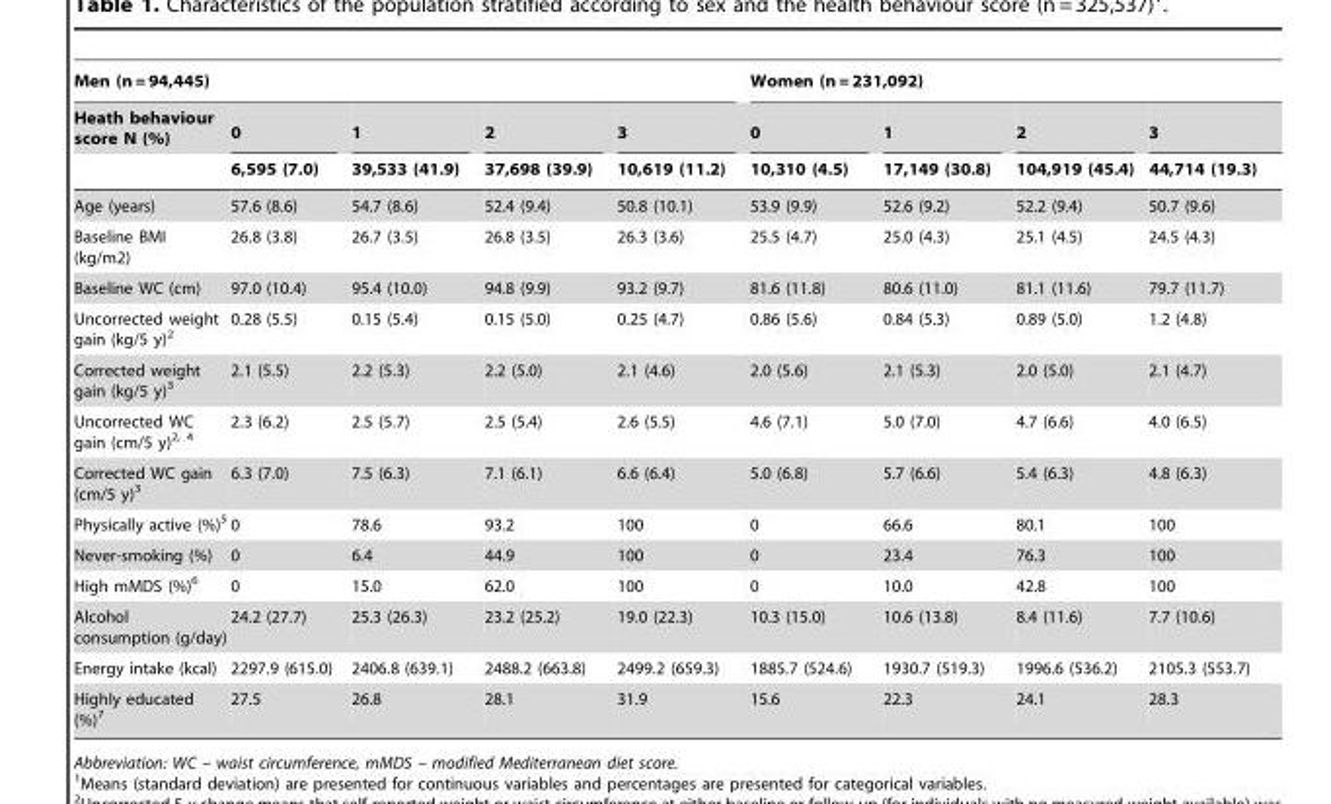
<table><thead><tr><td colspan="5">Men (n = 94,445)</td><td colspan="4">Women (n = 231,092)</td></tr><tr><td rowspan="2">Heath behaviour score N (%)</td><td rowspan="2">0 6,595 (7.0)</td><td rowspan="2">1 39,533 (41.9)</td><td rowspan="2">2 37,698 (39.9)</td><td rowspan="2">3 10,619 (11.2)</td><td rowspan="2">0 10,310 (4.5)</td><td rowspan="2">1 17,149 (30.8)</td><td rowspan="2">2 104,919 (45.4)</td><td rowspan="2">3 44,714 (19.3)</td></tr><tr></tr></thead><tbody><tr><td>Age (years)</td><td>57.6 (8.6)</td><td>54.7 (8.6)</td><td>52.4 (9.4)</td><td>50.8 (10.1)</td><td>53.9 (9.9)</td><td>52.6 (9.2)</td><td>52.2 (9.4)</td><td>50.7 (9.6)</td></tr><tr><td>Baseline BMI (kg/m2)</td><td>26.8 (3.8)</td><td>26.7 (3.5)</td><td>26.8 (3.5)</td><td>26.3 (3.6)</td><td>25.5 (4.7)</td><td>25.0 (4.3)</td><td>25.1 (4.5)</td><td>24.5 (4.3)</td></tr><tr><td>Baseline WC (cm)</td><td>97.0 (10.4)</td><td>95.4 (10.0)</td><td>94.8 (9.9)</td><td>93.2 (9.7)</td><td>81.6 (11.8)</td><td>80.6 (11.0)</td><td>81.1 (11.6)</td><td>79.7 (11.7)</td></tr><tr><td>Uncorrected weight gain (kg/5 y)<sup>2</sup></td><td>0.28 (5.5)</td><td>0.15 (5.4)</td><td>0.15 (5.0)</td><td>0.25 (4.7)</td><td>0.86 (5.6)</td><td>0.84 (5.3)</td><td>0.89 (5.0)</td><td>1.2 (4.8)</td></tr><tr><td>Corrected weight gain (kg/5 y)<sup>3</sup></td><td>2.1 (5.5)</td><td>2.2 (5.3)</td><td>2.2 (5.0)</td><td>2.1 (4.6)</td><td>2.0 (5.6)</td><td>2.1 (5.3)</td><td>2.0 (5.0)</td><td>2.1 (4.7)</td></tr><tr><td>Uncorrected WC gain (cm/5 y)<sup>2, 4</sup></td><td>2.3 (6.2)</td><td>2.5 (5.7)</td><td>2.5 (5.4)</td><td>2.6 (5.5)</td><td>4.6 (7.1)</td><td>5.0 (7.0)</td><td>4.7 (6.6)</td><td>4.0 (6.5)</td></tr><tr><td>Corrected WC gain (cm/5 y)<sup>3</sup></td><td>6.3 (7.0)</td><td>7.5 (6.3)</td><td>7.1 (6.1)</td><td>6.6 (6.4)</td><td>5.0 (6.8)</td><td>5.7 (6.6)</td><td>5.4 (6.3)</td><td>4.8 (6.3)</td></tr><tr><td>Physically active (%)<sup>5</sup></td><td>0</td><td>78.6</td><td>93.2</td><td>100</td><td>0</td><td>66.6</td><td>80.1</td><td>100</td></tr><tr><td>Never-smoking (%)</td><td>0</td><td>6.4</td><td>44.9</td><td>100</td><td>0</td><td>23.4</td><td>76.3</td><td>100</td></tr><tr><td>High mMDS (%)<sup>6</sup></td><td>0</td><td>15.0</td><td>62.0</td><td>100</td><td>0</td><td>10.0</td><td>42.8</td><td>100</td></tr><tr><td>Alcohol consumption (g/day)</td><td>24.2 (27.7)</td><td>25.3 (26.3)</td><td>23.2 (25.2)</td><td>19.0 (22.3)</td><td>10.3 (15.0)</td><td>10.6 (13.8)</td><td>8.4 (11.6)</td><td>7.7 (10.6)</td></tr><tr><td>Energy intake (kcal)</td><td>2297.9 (615.0)</td><td>2406.8 (639.1)</td><td>2488.2 (663.8)</td><td>2499.2 (659.3)</td><td>1885.7 (524.6)</td><td>1930.7 (519.3)</td><td>1996.6 (536.2)</td><td>2105.3 (553.7)</td></tr><tr><td>Highly educated (%)<sup>7</sup></td><td>27.5</td><td>26.8</td><td>28.1</td><td>31.9</td><td>15.6</td><td>22.3</td><td>24.1</td><td>28.3</td></tr></tbody></table>